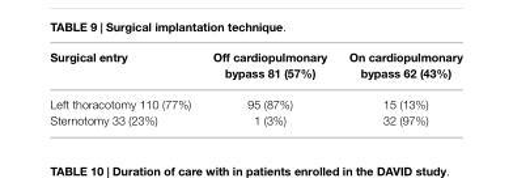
<table><thead><tr><td>Surgical entry</td><td>Off cardiopulmonary bypass 81 (57%)</td><td>On cardiopulmonary bypass 62 (43%)</td></tr></thead><tbody><tr><td>Left thoracotomy 110 (77%)</td><td>95 (87%)</td><td>15 (13%)</td></tr><tr><td>Sternotomy 33 (23%)</td><td>1 (3%)</td><td>32 (97%)</td></tr></tbody></table>